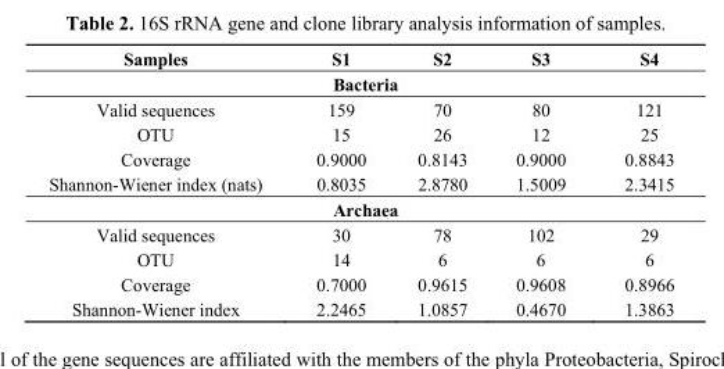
<table><thead><tr><td>Samples</td><td>S1</td><td>S2</td><td>S3</td><td>S4</td></tr></thead><tbody><tr><td colspan="5">Bacteria</td></tr><tr><td>Valid sequences</td><td>159</td><td>70</td><td>80</td><td>121</td></tr><tr><td>OTU</td><td>15</td><td>26</td><td>12</td><td>25</td></tr><tr><td>Coverage</td><td>0.9000</td><td>0.8143</td><td>0.9000</td><td>0.8843</td></tr><tr><td>Shannon-Wiener index (nats)</td><td>0.8035</td><td>2.8780</td><td>1.5009</td><td>2.3415</td></tr><tr><td colspan="5">Archaea</td></tr><tr><td>Valid sequences</td><td>30</td><td>78</td><td>102</td><td>29</td></tr><tr><td>OTU</td><td>14</td><td>6</td><td>6</td><td>6</td></tr><tr><td>Coverage</td><td>0.7000</td><td>0.9615</td><td>0.9608</td><td>0.8966</td></tr><tr><td>Shannon-Wiener index</td><td>2.2465</td><td>1.0857</td><td>0.4670</td><td>1.3863</td></tr></tbody></table>